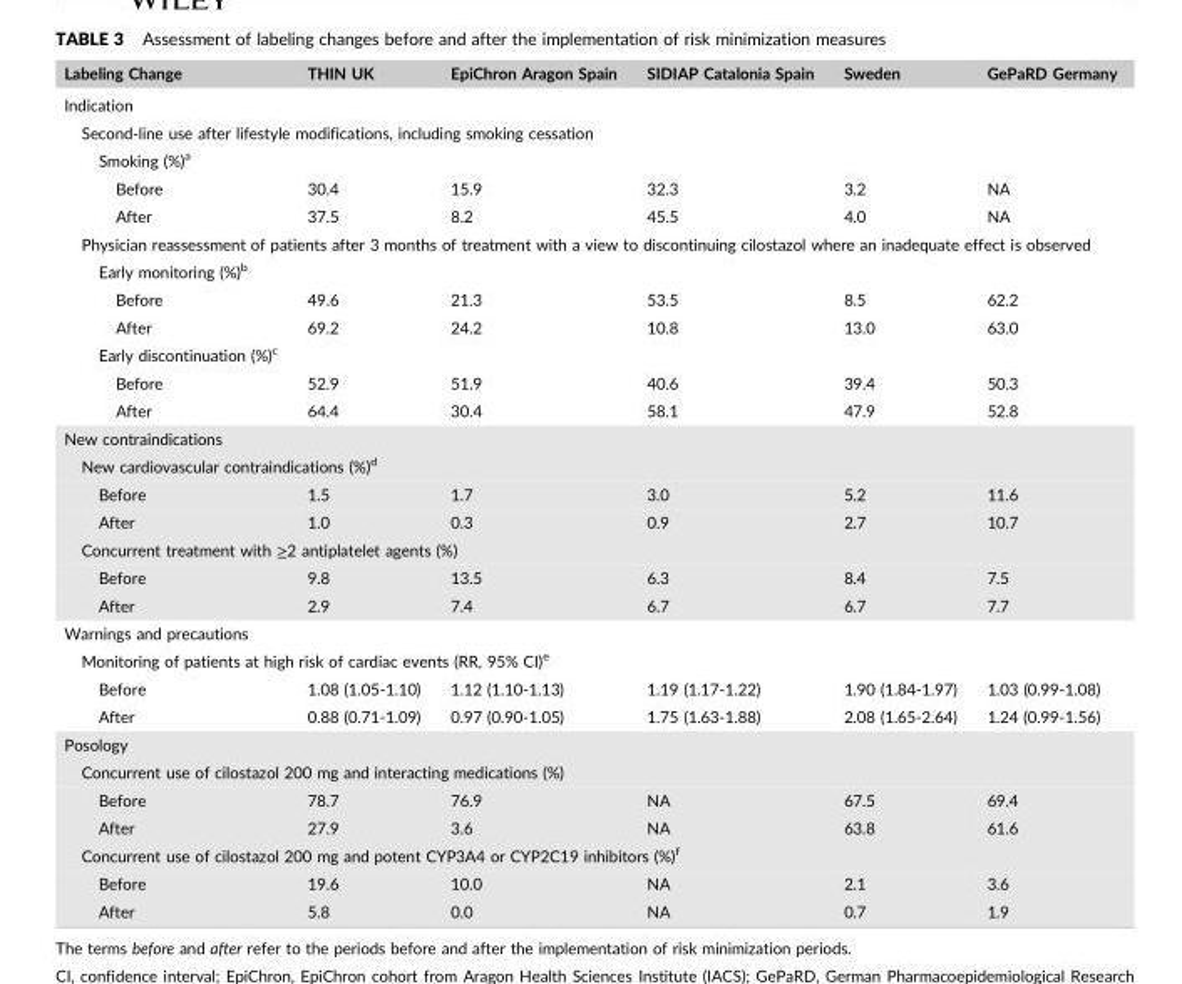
<table><thead><tr><td>Labeling Change</td><td>THIN UK</td><td>EpiChron Aragon Spain</td><td>SIDIAP Catalonia Spain</td><td>Sweden</td><td>GePaRD Germany</td></tr></thead><tbody><tr><td colspan="6">Indication</td></tr><tr><td colspan="6">Second‐line use after lifestyle modifications, including smoking cessation</td></tr><tr><td colspan="6">Smoking (%)<sup>a</sup></td></tr><tr><td>Before</td><td>30.4</td><td>15.9</td><td>32.3</td><td>3.2</td><td>NA</td></tr><tr><td>After</td><td>37.5</td><td>8.2</td><td>45.5</td><td>4.0</td><td>NA</td></tr><tr><td colspan="6">Physician reassessment of patients after 3 months of treatment with a view to discontinuing cilostazol where an inadequate effect is observed</td></tr><tr><td colspan="6">Early monitoring (%)<sup>b</sup></td></tr><tr><td>Before</td><td>49.6</td><td>21.3</td><td>53.5</td><td>8.5</td><td>62.2</td></tr><tr><td>After</td><td>69.2</td><td>24.2</td><td>10.8</td><td>13.0</td><td>63.0</td></tr><tr><td colspan="6">Early discontinuation (%)<sup>c</sup></td></tr><tr><td>Before</td><td>52.9</td><td>51.9</td><td>40.6</td><td>39.4</td><td>50.3</td></tr><tr><td>After</td><td>64.4</td><td>30.4</td><td>58.1</td><td>47.9</td><td>52.8</td></tr><tr><td colspan="6">New contraindications</td></tr><tr><td colspan="6">New cardiovascular contraindications (%)<sup>d</sup></td></tr><tr><td>Before</td><td>1.5</td><td>1.7</td><td>3.0</td><td>5.2</td><td>11.6</td></tr><tr><td>After</td><td>1.0</td><td>0.3</td><td>0.9</td><td>2.7</td><td>10.7</td></tr><tr><td colspan="6">Concurrent treatment with ≥2 antiplatelet agents (%)</td></tr><tr><td>Before</td><td>9.8</td><td>13.5</td><td>6.3</td><td>8.4</td><td>7.5</td></tr><tr><td>After</td><td>2.9</td><td>7.4</td><td>6.7</td><td>6.7</td><td>7.7</td></tr><tr><td colspan="6">Warnings and precautions</td></tr><tr><td colspan="6">Monitoring of patients at high risk of cardiac events (RR, 95% CI)<sup>e</sup></td></tr><tr><td>Before</td><td>1.08 (1.05‐1.10)</td><td>1.12 (1.10‐1.13)</td><td>1.19 (1.17‐1.22)</td><td>1.90 (1.84‐1.97)</td><td>1.03 (0.99‐1.08)</td></tr><tr><td>After</td><td>0.88 (0.71‐1.09)</td><td>0.97 (0.90‐1.05)</td><td>1.75 (1.63‐1.88)</td><td>2.08 (1.65‐2.64)</td><td>1.24 (0.99‐1.56)</td></tr><tr><td colspan="6">Posology</td></tr><tr><td colspan="6">Concurrent use of cilostazol 200 mg and interacting medications (%)</td></tr><tr><td>Before</td><td>78.7</td><td>76.9</td><td>NA</td><td>67.5</td><td>69.4</td></tr><tr><td>After</td><td>27.9</td><td>3.6</td><td>NA</td><td>63.8</td><td>61.6</td></tr><tr><td colspan="6">Concurrent use of cilostazol 200 mg and potent CYP3A4 or CYP2C19 inhibitors (%)<sup>f</sup></td></tr><tr><td>Before</td><td>19.6</td><td>10.0</td><td>NA</td><td>2.1</td><td>3.6</td></tr><tr><td>After</td><td>5.8</td><td>0.0</td><td>NA</td><td>0.7</td><td>1.9</td></tr></tbody></table>